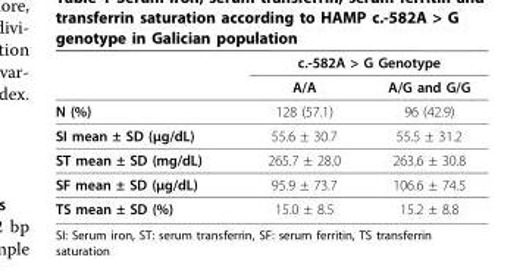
<table><thead><tr><td rowspan="2"></td><td colspan="2">c.-582A &gt; G Genotype</td></tr><tr><td>A/A</td><td>A/G and G/G</td></tr></thead><tbody><tr><td>N (%)</td><td>128 (57.1)</td><td>96 (42.9)</td></tr><tr><td>SI mean ± SD (μg/dL)</td><td>55.6 ± 30.7</td><td>55.5 ± 31.2</td></tr><tr><td>ST mean ± SD (mg/dL)</td><td>265.7 ± 28.0</td><td>263.6 ± 30.8</td></tr><tr><td>SF mean ± SD (μg/dL)</td><td>95.9 ± 73.7</td><td>106.6 ± 74.5</td></tr><tr><td>TS mean ± SD (%)</td><td>15.0 ± 8.5</td><td>15.2 ± 8.8</td></tr></tbody></table>